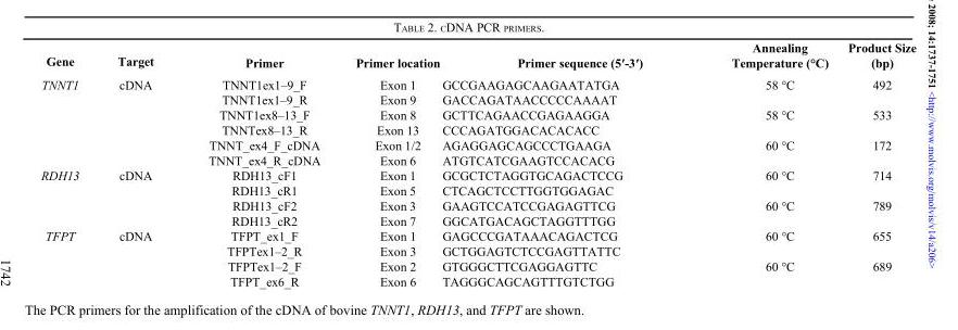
<table><thead><tr><td>Gene</td><td>Target</td><td>Primer</td><td>Primer location</td><td>Primer sequence (5′-3′)</td><td>Annealing Temperature (°C)</td><td>Product Size (bp)</td></tr></thead><tbody><tr><td rowspan="6">TNNT1</td><td>cDNA</td><td>TNNT1ex1–9_F</td><td>Exon 1</td><td>GCCGAAGAGCAAGAATATGA</td><td>58 °C</td><td>492</td></tr><tr><td></td><td>TNNT1ex1–9_R</td><td>Exon 9</td><td>GACCAGATAACCCCCAAAAT</td><td></td><td></td></tr><tr><td></td><td>TNNT1ex8–13_F</td><td>Exon 8</td><td>GCTTCAGAACCGAGAAGGA</td><td>58 °C</td><td>533</td></tr><tr><td></td><td>TNNTex8–13_R</td><td>Exon 13</td><td>CCCAGATGGACACACACC</td><td></td><td></td></tr><tr><td></td><td>TNNT_ex4_F_cDNA</td><td>Exon 1/2</td><td>AGAGGAGCAGCCCTGAAGA</td><td>60 °C</td><td>172</td></tr><tr><td></td><td>TNNT_ex4_R_cDNA</td><td>Exon 6</td><td>ATGTCATCGAAGTCCACACG</td><td></td><td></td></tr><tr><td rowspan="4">RDH13</td><td>cDNA</td><td>RDH13_cF1</td><td>Exon 1</td><td>GCGCTCTAGGTGCAGACTCCG</td><td>60 °C</td><td>714</td></tr><tr><td></td><td>RDH13_cR1</td><td>Exon 5</td><td>CTCAGCTCCTTGGTGGAGAC</td><td></td><td></td></tr><tr><td></td><td>RDH13_cF2</td><td>Exon 3</td><td>GAAGTCCATCCGAGAGTTCG</td><td>60 °C</td><td>789</td></tr><tr><td></td><td>RDH13_cR2</td><td>Exon 7</td><td>GGCATGACAGCTAGGTTTGG</td><td></td><td></td></tr><tr><td rowspan="4">TFPT</td><td>cDNA</td><td>TFPT_ex1_F</td><td>Exon 1</td><td>GAGCCCGATAAACAGACTCG</td><td>60 °C</td><td>655</td></tr><tr><td></td><td>TFPTex1–2_R</td><td>Exon 3</td><td>GCTGGAGTCTCCGAGTTATTC</td><td></td><td></td></tr><tr><td></td><td>TFPTex1–2_F</td><td>Exon 2</td><td>GTGGGCTTCGAGGAGTTC</td><td>60 °C</td><td>689</td></tr><tr><td></td><td>TFPT_ex6_R</td><td>Exon 6</td><td>TAGGGCAGCAGTTTGTCTGG</td><td></td><td></td></tr></tbody></table>